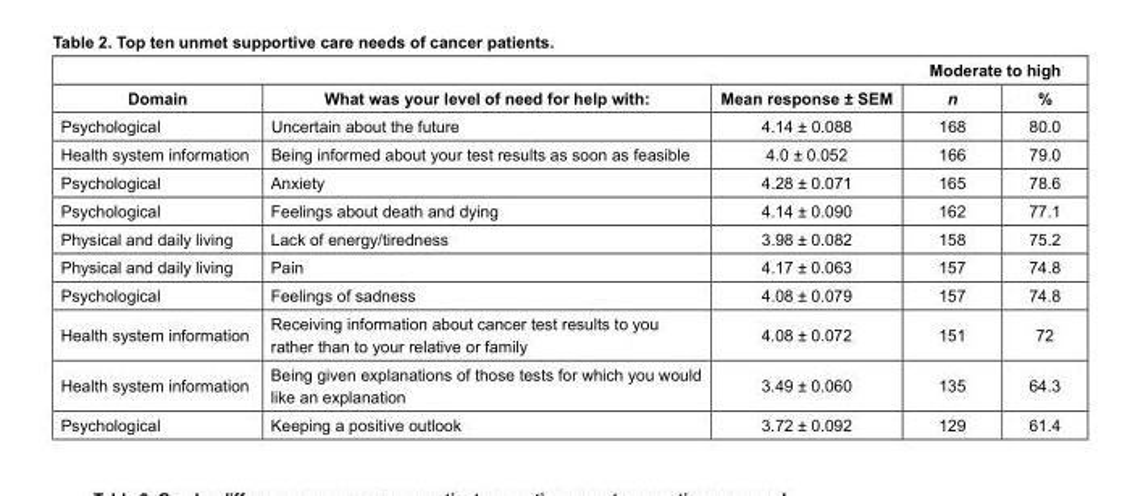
<table><thead><tr><td colspan="5">Moderate to high</td></tr><tr><td>Domain</td><td>What was your level of need for help with:</td><td>Mean response ± SEM</td><td>n</td><td>%</td></tr></thead><tbody><tr><td>Psychological</td><td>Uncertain about the future</td><td>4.14 ± 0.088</td><td>168</td><td>80.0</td></tr><tr><td>Health system information</td><td>Being informed about your test results as soon as feasible</td><td>4.0 ± 0.052</td><td>166</td><td>79.0</td></tr><tr><td>Psychological</td><td>Anxiety</td><td>4.28 ± 0.071</td><td>165</td><td>78.6</td></tr><tr><td>Psychological</td><td>Feelings about death and dying</td><td>4.14 ± 0.090</td><td>162</td><td>77.1</td></tr><tr><td>Physical and daily living</td><td>Lack of energy/tiredness</td><td>3.98 ± 0.082</td><td>158</td><td>75.2</td></tr><tr><td>Physical and daily living</td><td>Pain</td><td>4.17 ± 0.063</td><td>157</td><td>74.8</td></tr><tr><td>Psychological</td><td>Feelings of sadness</td><td>4.08 ± 0.079</td><td>157</td><td>74.8</td></tr><tr><td>Health system information</td><td>Receiving information about cancer test results to you rather than to your relative or family</td><td>4.08 ± 0.072</td><td>151</td><td>72</td></tr><tr><td>Health system information</td><td>Being given explanations of those tests for which you would like an explanation</td><td>3.49 ± 0.060</td><td>135</td><td>64.3</td></tr><tr><td>Psychological</td><td>Keeping a positive outlook</td><td>3.72 ± 0.092</td><td>129</td><td>61.4</td></tr></tbody></table>